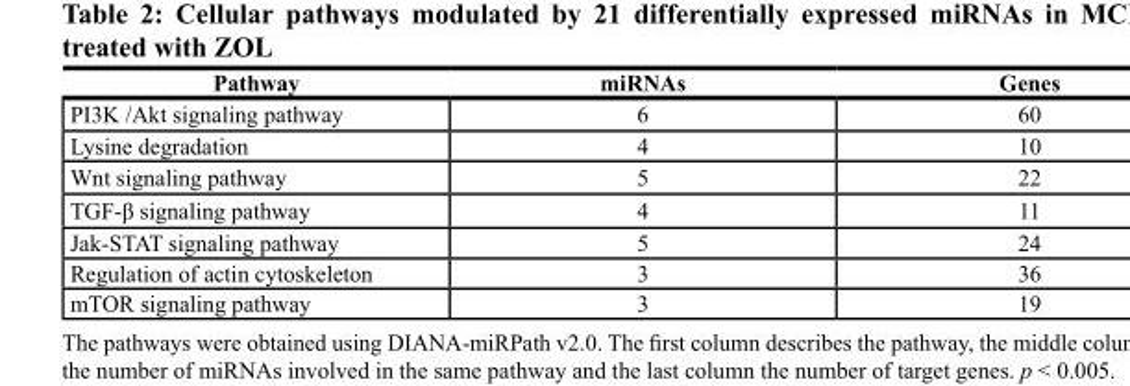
<table><thead><tr><td>Pathway</td><td>miRNAs</td><td>Genes</td></tr></thead><tbody><tr><td>PI3K /Akt signaling pathway</td><td>6</td><td>60</td></tr><tr><td>Lysine degradation</td><td>4</td><td>10</td></tr><tr><td>Wnt signaling pathway</td><td>5</td><td>22</td></tr><tr><td>TGF-β signaling pathway</td><td>4</td><td>11</td></tr><tr><td>Jak-STAT signaling pathway</td><td>5</td><td>24</td></tr><tr><td>Regulation of actin cytoskeleton</td><td>3</td><td>36</td></tr><tr><td>mTOR signaling pathway</td><td>3</td><td>19</td></tr></tbody></table>